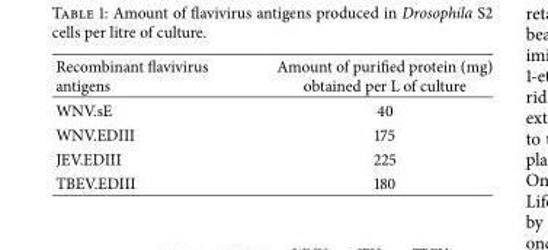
<table><thead><tr><td>Recombinant flavivirus antigens</td><td>Amount of purified protein (mg) obtained per L of culture</td></tr></thead><tbody><tr><td>WNV.sE</td><td>40</td></tr><tr><td>WNV.EDIII</td><td>175</td></tr><tr><td>JEV.EDIII</td><td>225</td></tr><tr><td>TBEV.EDIII</td><td>180</td></tr></tbody></table>